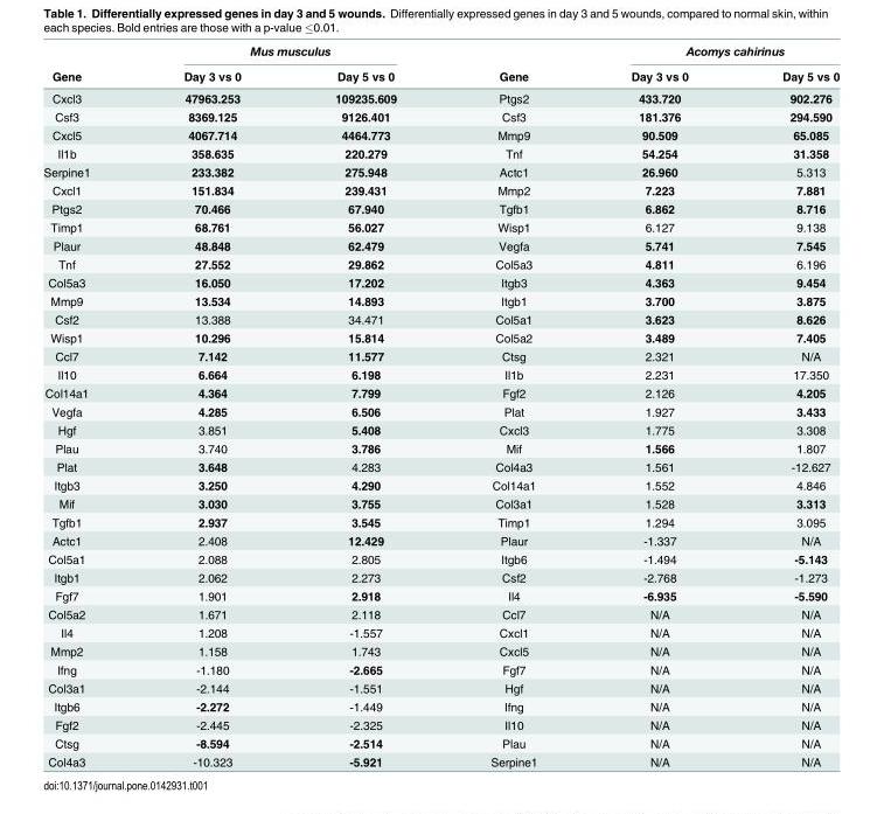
<table><thead><tr><td rowspan="2">Gene</td><td colspan="2">Mus musculus</td><td rowspan="2">Gene</td><td colspan="2">Acomys cahirinus</td></tr><tr><td>Day 3 vs 0</td><td>Day 5 vs 0</td><td>Day 3 vs 0</td><td>Day 5 vs 0</td></tr></thead><tbody><tr><td>Cxcl3</td><td>47963.253</td><td>109235.609</td><td>Ptgs2</td><td>433.720</td><td>902.276</td></tr><tr><td>Csf3</td><td>8369.125</td><td>9126.401</td><td>Csf3</td><td>181.376</td><td>294.590</td></tr><tr><td>Cxcl5</td><td>4067.714</td><td>4464.773</td><td>Mmp9</td><td>90.509</td><td>65.085</td></tr><tr><td>Il1b</td><td>358.635</td><td>220.279</td><td>Tnf</td><td>54.254</td><td>31.358</td></tr><tr><td>Serpine1</td><td>233.382</td><td>275.948</td><td>Actc1</td><td>26.960</td><td>5.313</td></tr><tr><td>Cxcl1</td><td>151.834</td><td>239.431</td><td>Mmp2</td><td>7.223</td><td>7.881</td></tr><tr><td>Ptgs2</td><td>70.466</td><td>67.940</td><td>Tgfb1</td><td>6.862</td><td>8.716</td></tr><tr><td>Timp1</td><td>68.761</td><td>56.027</td><td>Wisp1</td><td>6.127</td><td>9.138</td></tr><tr><td>Plaur</td><td>48.848</td><td>62.479</td><td>Vegfa</td><td>5.741</td><td>7.545</td></tr><tr><td>Tnf</td><td>27.552</td><td>29.862</td><td>Col5a3</td><td>4.811</td><td>6.196</td></tr><tr><td>Col5a3</td><td>16.050</td><td>17.202</td><td>Itgb3</td><td>4.363</td><td>9.454</td></tr><tr><td>Mmp9</td><td>13.534</td><td>14.893</td><td>Itgb1</td><td>3.700</td><td>3.875</td></tr><tr><td>Csf2</td><td>13.388</td><td>34.471</td><td>Col5a1</td><td>3.623</td><td>8.626</td></tr><tr><td>Wisp1</td><td>10.296</td><td>15.814</td><td>Col5a2</td><td>3.489</td><td>7.405</td></tr><tr><td>Ccl7</td><td>7.142</td><td>11.577</td><td>Ctsg</td><td>2.321</td><td>N/A</td></tr><tr><td>Il10</td><td>6.664</td><td>6.198</td><td>Il1b</td><td>2.231</td><td>17.350</td></tr><tr><td>Col14a1</td><td>4.364</td><td>7.799</td><td>Fgf2</td><td>2.126</td><td>4.205</td></tr><tr><td>Vegfa</td><td>4.285</td><td>6.506</td><td>Plat</td><td>1.927</td><td>3.433</td></tr><tr><td>Hgf</td><td>3.851</td><td>5.408</td><td>Cxcl3</td><td>1.775</td><td>3.308</td></tr><tr><td>Plau</td><td>3.740</td><td>3.786</td><td>Mif</td><td>1.566</td><td>1.807</td></tr><tr><td>Plat</td><td>3.648</td><td>4.283</td><td>Col4a3</td><td>1.561</td><td>-12.627</td></tr><tr><td>Itgb3</td><td>3.250</td><td>4.290</td><td>Col14a1</td><td>1.552</td><td>4.846</td></tr><tr><td>Mif</td><td>3.030</td><td>3.755</td><td>Col3a1</td><td>1.528</td><td>3.313</td></tr><tr><td>Tgfb1</td><td>2.937</td><td>3.545</td><td>Timp1</td><td>1.294</td><td>3.095</td></tr><tr><td>Actc1</td><td>2.408</td><td>12.429</td><td>Plaur</td><td>-1.337</td><td>N/A</td></tr><tr><td>Col5a1</td><td>2.088</td><td>2.805</td><td>Itgb6</td><td>-1.494</td><td>-5.143</td></tr><tr><td>Itgb1</td><td>2.062</td><td>2.273</td><td>Csf2</td><td>-2.768</td><td>-1.273</td></tr><tr><td>Fgf7</td><td>1.901</td><td>2.918</td><td>Il4</td><td>-6.935</td><td>-5.590</td></tr><tr><td>Col5a2</td><td>1.671</td><td>2.118</td><td>Ccl7</td><td>N/A</td><td>N/A</td></tr><tr><td>Il4</td><td>1.208</td><td>-1.557</td><td>Cxcl1</td><td>N/A</td><td>N/A</td></tr><tr><td>Mmp2</td><td>1.158</td><td>1.743</td><td>Cxcl5</td><td>N/A</td><td>N/A</td></tr><tr><td>Ifng</td><td>-1.180</td><td>-2.665</td><td>Fgf7</td><td>N/A</td><td>N/A</td></tr><tr><td>Col3a1</td><td>-2.144</td><td>-1.551</td><td>Hgf</td><td>N/A</td><td>N/A</td></tr><tr><td>Itgb6</td><td>-2.272</td><td>-1.449</td><td>Ifng</td><td>N/A</td><td>N/A</td></tr><tr><td>Fgf2</td><td>-2.445</td><td>-2.325</td><td>Il10</td><td>N/A</td><td>N/A</td></tr><tr><td>Ctsg</td><td>-8.594</td><td>-2.514</td><td>Plau</td><td>N/A</td><td>N/A</td></tr><tr><td>Col4a3</td><td>-10.323</td><td>-5.921</td><td>Serpine1</td><td>N/A</td><td>N/A</td></tr></tbody></table>